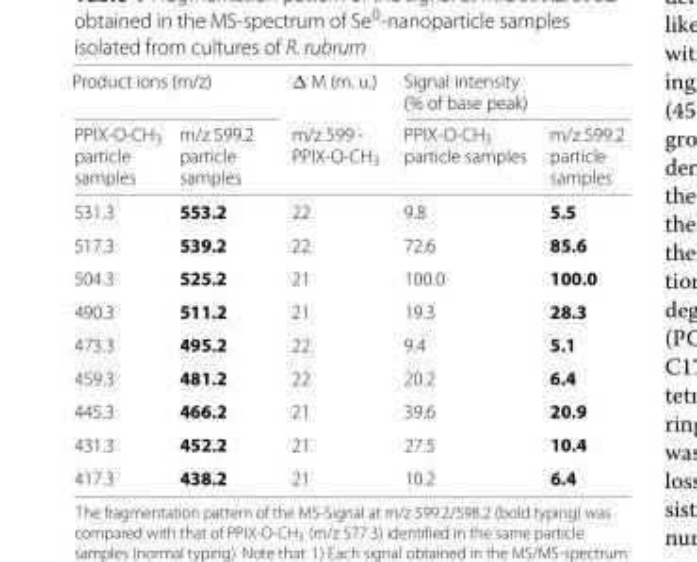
<table><thead><tr><td colspan="2">Product ions (m/z)</td><td rowspan="2">Δ M (m. u.) m/z 599 - PPIX-O-CH<sub>3</sub></td><td rowspan="2">Signal intensity (% of base peak) PPIX-O-CH<sub>3</sub> particle samples</td><td rowspan="2">m/z 599.2 particle samples</td></tr><tr><td>PPIX-O-CH<sub>3</sub> particle samples</td><td>m/z 599.2 particle samples</td></tr></thead><tbody><tr><td>531.3</td><td>553.2</td><td>22</td><td>9.8</td><td>5.5</td></tr><tr><td>517.3</td><td>539.2</td><td>22</td><td>72.6</td><td>85.6</td></tr><tr><td>504.3</td><td>525.2</td><td>21</td><td>100.0</td><td>100.0</td></tr><tr><td>490.3</td><td>511.2</td><td>21</td><td>19.3</td><td>28.3</td></tr><tr><td>473.3</td><td>495.2</td><td>22</td><td>9.4</td><td>5.1</td></tr><tr><td>459.3</td><td>481.2</td><td>22</td><td>20.2</td><td>6.4</td></tr><tr><td>445.3</td><td>466.2</td><td>21</td><td>39.6</td><td>20.9</td></tr><tr><td>431.3</td><td>452.2</td><td>21</td><td>27.5</td><td>10.4</td></tr><tr><td>417.3</td><td>438.2</td><td>21</td><td>10.2</td><td>6.4</td></tr></tbody></table>